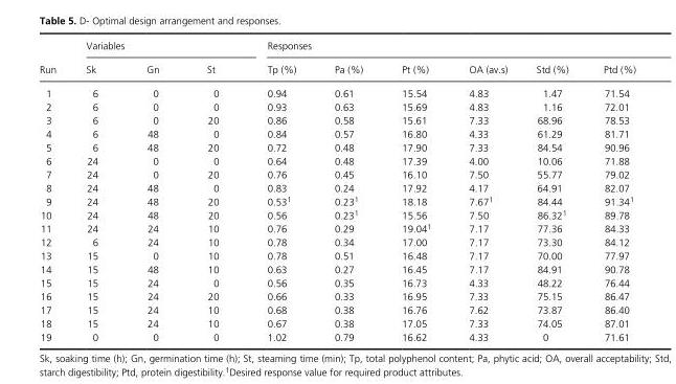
<table><thead><tr><td rowspan="2">Run</td><td colspan="3">Variables</td><td colspan="6">Responses</td></tr><tr><td>Sk</td><td>Gn</td><td>St</td><td>Tp (%)</td><td>Pa (%)</td><td>Pt (%)</td><td>OA (av.s)</td><td>Std (%)</td><td>Ptd (%)</td></tr></thead><tbody><tr><td>1</td><td>6</td><td>0</td><td>0</td><td>0.94</td><td>0.61</td><td>15.54</td><td>4.83</td><td>1.47</td><td>71.54</td></tr><tr><td>2</td><td>6</td><td>0</td><td>0</td><td>0.93</td><td>0.63</td><td>15.69</td><td>4.83</td><td>1.16</td><td>72.01</td></tr><tr><td>3</td><td>6</td><td>0</td><td>20</td><td>0.86</td><td>0.58</td><td>15.61</td><td>7.33</td><td>68.96</td><td>78.53</td></tr><tr><td>4</td><td>6</td><td>48</td><td>0</td><td>0.84</td><td>0.57</td><td>16.80</td><td>4.33</td><td>61.29</td><td>81.71</td></tr><tr><td>5</td><td>6</td><td>48</td><td>20</td><td>0.72</td><td>0.48</td><td>17.90</td><td>7.33</td><td>84.54</td><td>90.96</td></tr><tr><td>6</td><td>24</td><td>0</td><td>0</td><td>0.64</td><td>0.48</td><td>17.39</td><td>4.00</td><td>10.06</td><td>71.88</td></tr><tr><td>7</td><td>24</td><td>0</td><td>20</td><td>0.76</td><td>0.45</td><td>16.10</td><td>7.50</td><td>55.77</td><td>79.02</td></tr><tr><td>8</td><td>24</td><td>48</td><td>0</td><td>0.83</td><td>0.24</td><td>17.92</td><td>4.17</td><td>64.91</td><td>82.07</td></tr><tr><td>9</td><td>24</td><td>48</td><td>20</td><td>0.531</td><td>0.231</td><td>18.18</td><td>7.671</td><td>84.44</td><td>91.341</td></tr><tr><td>10</td><td>24</td><td>48</td><td>20</td><td>0.56</td><td>0.231</td><td>15.56</td><td>7.50</td><td>86.321</td><td>89.78</td></tr><tr><td>11</td><td>24</td><td>24</td><td>10</td><td>0.76</td><td>0.29</td><td>19.041</td><td>7.17</td><td>77.36</td><td>84.33</td></tr><tr><td>12</td><td>6</td><td>24</td><td>10</td><td>0.78</td><td>0.34</td><td>17.00</td><td>7.17</td><td>73.30</td><td>84.12</td></tr><tr><td>13</td><td>15</td><td>0</td><td>10</td><td>0.78</td><td>0.51</td><td>16.48</td><td>7.17</td><td>70.00</td><td>77.97</td></tr><tr><td>14</td><td>15</td><td>48</td><td>10</td><td>0.63</td><td>0.27</td><td>16.45</td><td>7.17</td><td>84.91</td><td>90.78</td></tr><tr><td>15</td><td>15</td><td>24</td><td>0</td><td>0.56</td><td>0.35</td><td>16.73</td><td>4.33</td><td>48.22</td><td>76.44</td></tr><tr><td>16</td><td>15</td><td>24</td><td>20</td><td>0.66</td><td>0.33</td><td>16.95</td><td>7.33</td><td>75.15</td><td>86.47</td></tr><tr><td>17</td><td>15</td><td>24</td><td>10</td><td>0.68</td><td>0.38</td><td>16.76</td><td>7.62</td><td>73.87</td><td>86.40</td></tr><tr><td>18</td><td>15</td><td>24</td><td>10</td><td>0.67</td><td>0.38</td><td>17.05</td><td>7.33</td><td>74.05</td><td>87.01</td></tr><tr><td>19</td><td>0</td><td>0</td><td>0</td><td>1.02</td><td>0.79</td><td>16.62</td><td>4.33</td><td>0</td><td>71.61</td></tr></tbody></table>